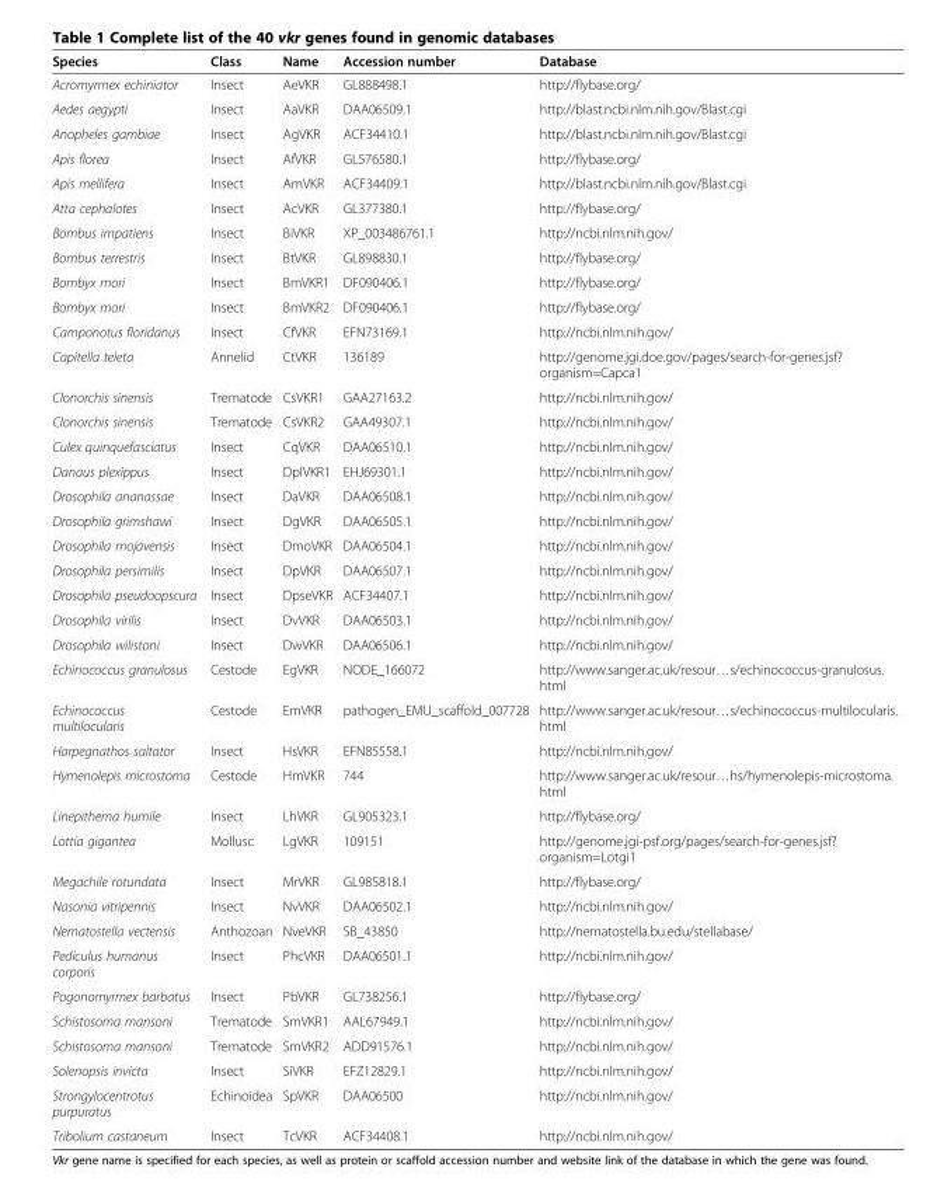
<table><thead><tr><td>Species</td><td>Class</td><td>Name</td><td>Accession number</td><td>Database</td></tr></thead><tbody><tr><td>Acromyrmex echiniator</td><td>Insect</td><td>AeVKR</td><td>GL888498.1</td><td>http://flybase.org/</td></tr><tr><td>Aedes aegypti</td><td>Insect</td><td>AaVKR</td><td>DAA06509.1</td><td>http://blast.ncbi.nlm.nih.gov/Blast.cgi</td></tr><tr><td>Anopheles gambiae</td><td>Insect</td><td>AgVKR</td><td>ACF34410.1</td><td>http://blast.ncbi.nlm.nih.gov/Blast.cgi</td></tr><tr><td>Apis florea</td><td>Insect</td><td>AfVKR</td><td>GL576580.1</td><td>http://flybase.org/</td></tr><tr><td>Apis mellifera</td><td>Insect</td><td>AmVKR</td><td>ACF34409.1</td><td>http://blast.ncbi.nlm.nih.gov/Blast.cgi</td></tr><tr><td>Atta cephalotes</td><td>Insect</td><td>AcVKR</td><td>GL377380.1</td><td>http://flybase.org/</td></tr><tr><td>Bombus impatiens</td><td>Insect</td><td>BiVKR</td><td>XP_003486761.1</td><td>http://ncbi.nlm.nih.gov/</td></tr><tr><td>Bombus terrestris</td><td>Insect</td><td>BtVKR</td><td>GL898830.1</td><td>http://flybase.org/</td></tr><tr><td>Bombyx mori</td><td>Insect</td><td>BmVKR1</td><td>DF090406.1</td><td>http://flybase.org/</td></tr><tr><td>Bombyx mori</td><td>Insect</td><td>BmVKR2</td><td>DF090406.1</td><td>http://flybase.org/</td></tr><tr><td>Camponotus floridanus</td><td>Insect</td><td>CfVKR</td><td>EFN73169.1</td><td>http://ncbi.nlm.nih.gov/</td></tr><tr><td>Capitella teleta</td><td>Annelid</td><td>CtVKR</td><td>136189</td><td>http://genome.jgi.doe.gov/pages/search-for-genes.jsf? organism=Capca1</td></tr><tr><td>Clonorchis sinensis</td><td>Trematode</td><td>CsVKR1</td><td>GAA27163.2</td><td>http://ncbi.nlm.nih.gov/</td></tr><tr><td>Clonorchis sinensis</td><td>Trematode</td><td>CsVKR2</td><td>GAA49307.1</td><td>http://ncbi.nlm.nih.gov/</td></tr><tr><td>Culex quinquefasciatus</td><td>Insect</td><td>CqVKR</td><td>DAA06510.1</td><td>http://ncbi.nlm.nih.gov/</td></tr><tr><td>Danaus plexippus</td><td>Insect</td><td>DplVKR1</td><td>EHJ69301.1</td><td>http://ncbi.nlm.nih.gov/</td></tr><tr><td>Drosophila ananassae</td><td>Insect</td><td>DaVKR</td><td>DAA06508.1</td><td>http://ncbi.nlm.nih.gov/</td></tr><tr><td>Drosophila grimshawi</td><td>Insect</td><td>DgVKR</td><td>DAA06505.1</td><td>http://ncbi.nlm.nih.gov/</td></tr><tr><td>Drosophila mojavensis</td><td>Insect</td><td>DmoVKR</td><td>DAA06504.1</td><td>http://ncbi.nlm.nih.gov/</td></tr><tr><td>Drosophila persimilis</td><td>Insect</td><td>DpVKR</td><td>DAA06507.1</td><td>http://ncbi.nlm.nih.gov/</td></tr><tr><td>Drosophila pseudoopscura</td><td>Insect</td><td>DpseVKR</td><td>ACF34407.1</td><td>http://ncbi.nlm.nih.gov/</td></tr><tr><td>Drosophila virilis</td><td>Insect</td><td>DvVKR</td><td>DAA06503.1</td><td>http://ncbi.nlm.nih.gov/</td></tr><tr><td>Drosophila wilistoni</td><td>Insect</td><td>DwVKR</td><td>DAA06506.1</td><td>http://ncbi.nlm.nih.gov/</td></tr><tr><td>Echinococcus granulosus</td><td>Cestode</td><td>EgVKR</td><td>NODE_166072</td><td>http://www.sanger.ac.uk/resour…s/echinococcus-granulosus. html</td></tr><tr><td>Echinococcus multilocularis</td><td>Cestode</td><td>EmVKR</td><td>pathogen_EMU_scaffold_007728</td><td>http://www.sanger.ac.uk/resour…s/echinococcus-multilocularis. html</td></tr><tr><td>Harpegnathos saltator</td><td>Insect</td><td>HsVKR</td><td>EFN85558.1</td><td>http://ncbi.nlm.nih.gov/</td></tr><tr><td>Hymenolepis microstoma</td><td>Cestode</td><td>HmVKR</td><td>744</td><td>http://www.sanger.ac.uk/resour…hs/hymenolepis-microstoma. html</td></tr><tr><td>Linepithema humile</td><td>Insect</td><td>LhVKR</td><td>GL905323.1</td><td>http://flybase.org/</td></tr><tr><td>Lottia gigantea</td><td>Mollusc</td><td>LgVKR</td><td>109151</td><td>http://genome.jgi-psf.org/pages/search-for-genes.jsf? organism=Lotgi1</td></tr><tr><td>Megachile rotundata</td><td>Insect</td><td>MrVKR</td><td>GL985818.1</td><td>http://flybase.org/</td></tr><tr><td>Nasonia vitripennis</td><td>Insect</td><td>NvVKR</td><td>DAA06502.1</td><td>http://ncbi.nlm.nih.gov/</td></tr><tr><td>Nematostella vectensis</td><td>Anthozoan</td><td>NveVKR</td><td>SB_43850</td><td>http://nematostella.bu.edu/stellabase/</td></tr><tr><td>Pediculus humanus corporis</td><td>Insect</td><td>PhcVKR</td><td>DAA06501.1</td><td>http://ncbi.nlm.nih.gov/</td></tr><tr><td>Pogonomyrmex barbatus</td><td>Insect</td><td>PbVKR</td><td>GL738256.1</td><td>http://flybase.org/</td></tr><tr><td>Schistosoma mansoni</td><td>Trematode</td><td>SmVKR1</td><td>AAL67949.1</td><td>http://ncbi.nlm.nih.gov/</td></tr><tr><td>Schistosoma mansoni</td><td>Trematode</td><td>SmVKR2</td><td>ADD91576.1</td><td>http://ncbi.nlm.nih.gov/</td></tr><tr><td>Solenopsis invicta</td><td>Insect</td><td>SiVKR</td><td>EFZ12829.1</td><td>http://ncbi.nlm.nih.gov/</td></tr><tr><td>Strongylocentrotus purpuratus</td><td>Echinoidea</td><td>SpVKR</td><td>DAA06500</td><td>http://ncbi.nlm.nih.gov/</td></tr><tr><td>Tribolium castaneum</td><td>Insect</td><td>TcVKR</td><td>ACF34408.1</td><td>http://ncbi.nlm.nih.gov/</td></tr></tbody></table>